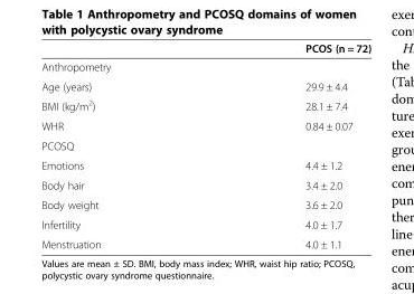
<table><thead><tr><td></td><td>PCOS (n = 72)</td></tr></thead><tbody><tr><td colspan="2">Anthropometry</td></tr><tr><td>Age (years)</td><td>29.9 ± 4.4</td></tr><tr><td>BMI (kg/m<sup>2</sup>)</td><td>28.1 ± 7.4</td></tr><tr><td>WHR</td><td>0.84 ± 0.07</td></tr><tr><td colspan="2">PCOSQ</td></tr><tr><td>Emotions</td><td>4.4 ± 1.2</td></tr><tr><td>Body hair</td><td>3.4 ± 2.0</td></tr><tr><td>Body weight</td><td>3.6 ± 2.0</td></tr><tr><td>Infertility</td><td>4.0 ± 1.7</td></tr><tr><td>Menstruation</td><td>4.0 ± 1.1</td></tr></tbody></table>